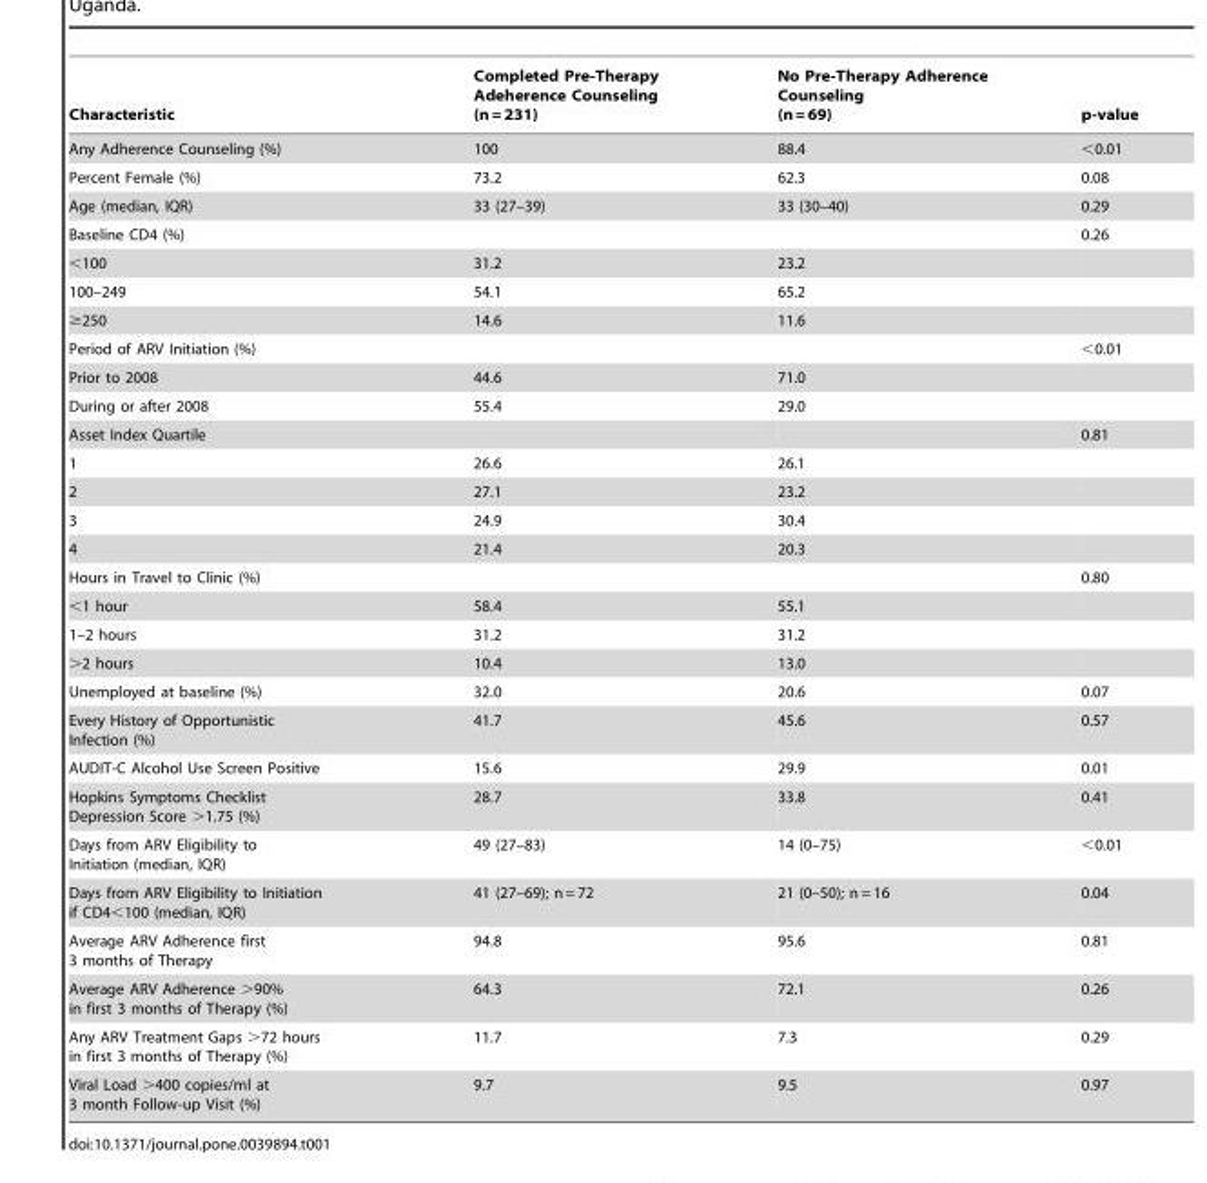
<table><thead><tr><td>Characteristic</td><td>Completed Pre-Therapy Adeherence Counseling (n = 231)</td><td>No Pre-Therapy Adherence Counseling (n = 69)</td><td>p-value</td></tr></thead><tbody><tr><td>Any Adherence Counseling (%)</td><td>100</td><td>88.4</td><td>&lt;0.01</td></tr><tr><td>Percent Female (%)</td><td>73.2</td><td>62.3</td><td>0.08</td></tr><tr><td>Age (median, IQR)</td><td>33 (27–39)</td><td>33 (30–40)</td><td>0.29</td></tr><tr><td>Baseline CD4 (%)</td><td></td><td></td><td>0.26</td></tr><tr><td>&lt;100</td><td>31.2</td><td>23.2</td><td></td></tr><tr><td>100–249</td><td>54.1</td><td>65.2</td><td></td></tr><tr><td>≥250</td><td>14.6</td><td>11.6</td><td></td></tr><tr><td>Period of ARV Initiation (%)</td><td></td><td></td><td>&lt;0.01</td></tr><tr><td>Prior to 2008</td><td>44.6</td><td>71.0</td><td></td></tr><tr><td>During or after 2008</td><td>55.4</td><td>29.0</td><td></td></tr><tr><td>Asset Index Quartile</td><td></td><td></td><td>0.81</td></tr><tr><td>1</td><td>26.6</td><td>26.1</td><td></td></tr><tr><td>2</td><td>27.1</td><td>23.2</td><td></td></tr><tr><td>3</td><td>24.9</td><td>30.4</td><td></td></tr><tr><td>4</td><td>21.4</td><td>20.3</td><td></td></tr><tr><td>Hours in Travel to Clinic (%)</td><td></td><td></td><td>0.80</td></tr><tr><td>&lt;1 hour</td><td>58.4</td><td>55.1</td><td></td></tr><tr><td>1–2 hours</td><td>31.2</td><td>31.2</td><td></td></tr><tr><td>&gt;2 hours</td><td>10.4</td><td>13.0</td><td></td></tr><tr><td>Unemployed at baseline (%)</td><td>32.0</td><td>20.6</td><td>0.07</td></tr><tr><td>Every History of Opportunistic Infection (%)</td><td>41.7</td><td>45.6</td><td>0.57</td></tr><tr><td>AUDIT-C Alcohol Use Screen Positive</td><td>15.6</td><td>29.9</td><td>0.01</td></tr><tr><td>Hopkins Symptoms Checklist Depression Score &gt;1.75 (%)</td><td>28.7</td><td>33.8</td><td>0.41</td></tr><tr><td>Days from ARV Eligibility to Initiation (median, IQR)</td><td>49 (27–83)</td><td>14 (0–75)</td><td>&lt;0.01</td></tr><tr><td>Days from ARV Eligibility to Initiation if CD4&lt;100 (median, IQR)</td><td>41 (27–69); n = 72</td><td>21 (0–50); n = 16</td><td>0.04</td></tr><tr><td>Average ARV Adherence first 3 months of Therapy</td><td>94.8</td><td>95.6</td><td>0.81</td></tr><tr><td>Average ARV Adherence &gt;90% in first 3 months of Therapy (%)</td><td>64.3</td><td>72.1</td><td>0.26</td></tr><tr><td>Any ARV Treatment Gaps &gt;72 hours in first 3 months of Therapy (%)</td><td>11.7</td><td>7.3</td><td>0.29</td></tr><tr><td>Viral Load &gt;400 copies/ml at 3 month Follow-up Visit (%)</td><td>9.7</td><td>9.5</td><td>0.97</td></tr></tbody></table>